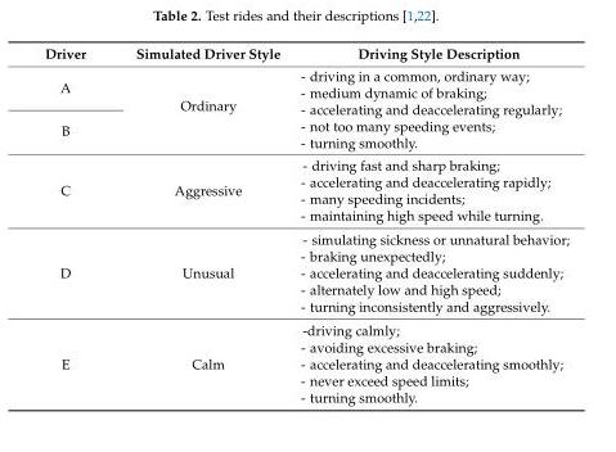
<table><thead><tr><td>Driver</td><td>Simulated Driver Style</td><td>Driving Style Description</td></tr></thead><tbody><tr><td>A</td><td rowspan="2">Ordinary</td><td rowspan="2">- driving in a common, ordinary way; - medium dynamic of braking; - accelerating and deaccelerating regularly; - not too many speeding events; - turning smoothly.</td></tr><tr><td>B</td></tr><tr><td>C</td><td>Aggressive</td><td>- driving fast and sharp braking; - accelerating and deaccelerating rapidly; - many speeding incidents; - maintaining high speed while turning.</td></tr><tr><td>D</td><td>Unusual</td><td>- simulating sickness or unnatural behavior; - braking unexpectedly; - accelerating and deaccelerating suddenly; - alternately low and high speed; - turning inconsistently and aggressively.</td></tr><tr><td>E</td><td>Calm</td><td>-driving calmly; - avoiding excessive braking; - accelerating and deaccelerating smoothly; - never exceed speed limits; - turning smoothly.</td></tr></tbody></table>